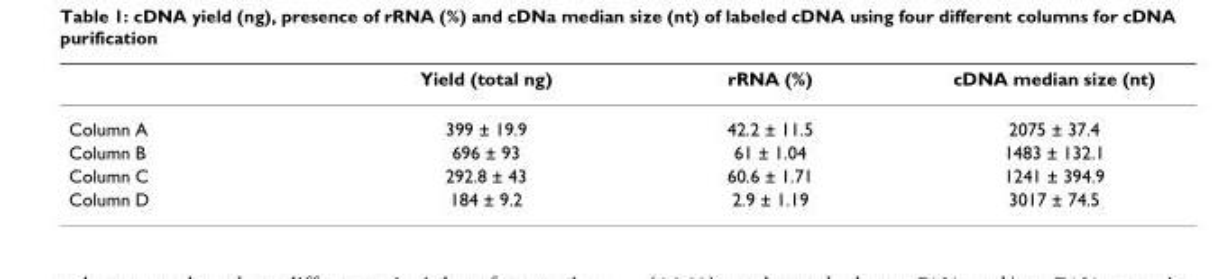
<table><thead><tr><td></td><td>Yield (total ng)</td><td>rRNA (%)</td><td>cDNA median size (nt)</td></tr></thead><tbody><tr><td>Column A</td><td>399 ± 19.9</td><td>42.2 ± 11.5</td><td>2075 ± 37.4</td></tr><tr><td>Column B</td><td>696 ± 93</td><td>61 ± 1.04</td><td>1483 ± 132.1</td></tr><tr><td>Column C</td><td>292.8 ± 43</td><td>60.6 ± 1.71</td><td>1241 ± 394.9</td></tr><tr><td>Column D</td><td>184 ± 9.2</td><td>2.9 ± 1.19</td><td>3017 ± 74.5</td></tr></tbody></table>